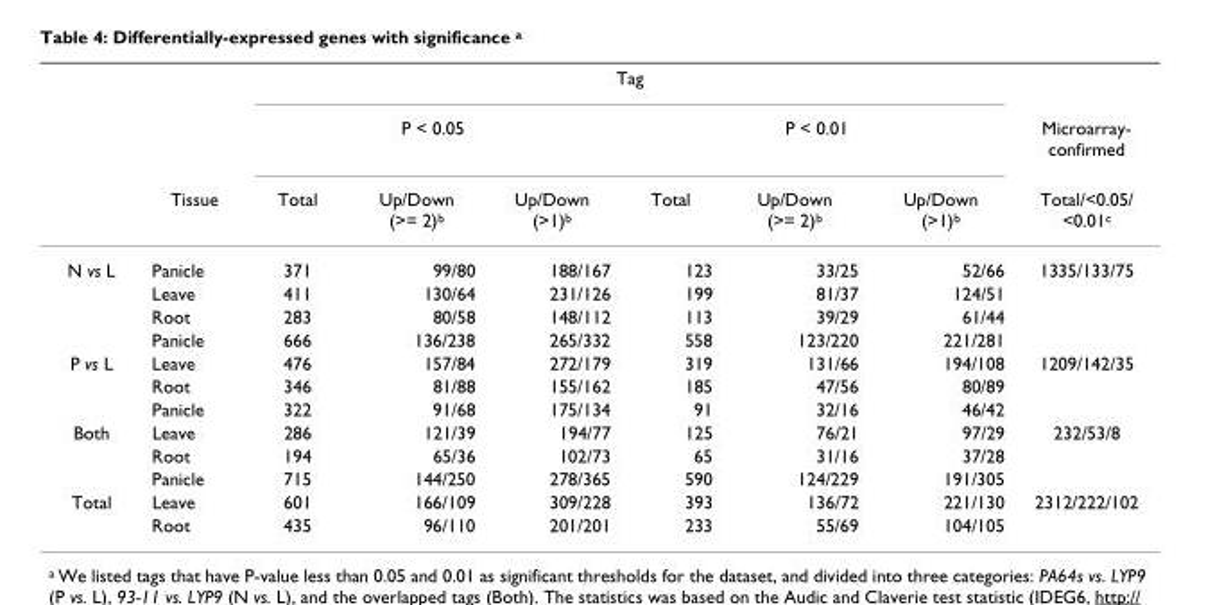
<table><thead><tr><td rowspan="3"></td><td rowspan="3">Tissue</td><td colspan="6">Tag</td><td rowspan="3">Microarray- confirmed Total/&lt;0.05/ &lt;0.01<sup>c</sup></td></tr><tr><td colspan="3">P &lt; 0.05</td><td colspan="3">P &lt; 0.01</td></tr><tr><td>Total</td><td>Up/Down (&gt;= 2)<sup>b</sup></td><td>Up/Down (&gt;1)<sup>b</sup></td><td>Total</td><td>Up/Down (&gt;= 2)<sup>b</sup></td><td>Up/Down (&gt;1)<sup>b</sup></td></tr></thead><tbody><tr><td rowspan="4">N vs L</td><td>Panicle</td><td>371</td><td>99/80</td><td>188/167</td><td>123</td><td>33/25</td><td>52/66</td><td>1335/133/75</td></tr><tr><td>Leave</td><td>411</td><td>130/64</td><td>231/126</td><td>199</td><td>81/37</td><td>124/51</td><td></td></tr><tr><td>Root</td><td>283</td><td>80/58</td><td>148/112</td><td>113</td><td>39/29</td><td>61/44</td><td></td></tr><tr><td>Panicle</td><td>666</td><td>136/238</td><td>265/332</td><td>558</td><td>123/220</td><td>221/281</td><td></td></tr><tr><td rowspan="3">P vs L</td><td>Leave</td><td>476</td><td>157/84</td><td>272/179</td><td>319</td><td>131/66</td><td>194/108</td><td>1209/142/35</td></tr><tr><td>Root</td><td>346</td><td>81/88</td><td>155/162</td><td>185</td><td>47/56</td><td>80/89</td><td></td></tr><tr><td>Panicle</td><td>322</td><td>91/68</td><td>175/134</td><td>91</td><td>32/16</td><td>46/42</td><td></td></tr><tr><td rowspan="3">Both</td><td>Leave</td><td>286</td><td>121/39</td><td>194/77</td><td>125</td><td>76/21</td><td>97/29</td><td>232/53/8</td></tr><tr><td>Root</td><td>194</td><td>65/36</td><td>102/73</td><td>65</td><td>31/16</td><td>37/28</td><td></td></tr><tr><td>Panicle</td><td>715</td><td>144/250</td><td>278/365</td><td>590</td><td>124/229</td><td>191/305</td><td></td></tr><tr><td rowspan="2">Total</td><td>Leave</td><td>601</td><td>166/109</td><td>309/228</td><td>393</td><td>136/72</td><td>221/130</td><td>2312/222/102</td></tr><tr><td>Root</td><td>435</td><td>96/110</td><td>201/201</td><td>233</td><td>55/69</td><td>104/105</td><td></td></tr></tbody></table>